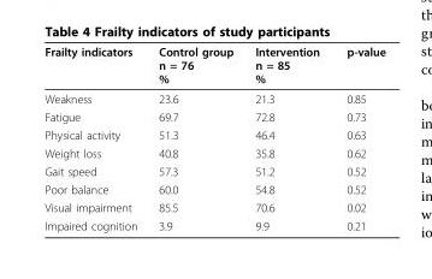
<table><thead><tr><td>Frailty indicators</td><td>Control group n = 76 %</td><td>Intervention n = 85 %</td><td>p-value</td></tr></thead><tbody><tr><td>Weakness</td><td>23.6</td><td>21.3</td><td>0.85</td></tr><tr><td>Fatigue</td><td>69.7</td><td>72.8</td><td>0.73</td></tr><tr><td>Physical activity</td><td>51.3</td><td>46.4</td><td>0.63</td></tr><tr><td>Weight loss</td><td>40.8</td><td>35.8</td><td>0.62</td></tr><tr><td>Gait speed</td><td>57.3</td><td>51.2</td><td>0.52</td></tr><tr><td>Poor balance</td><td>60.0</td><td>54.8</td><td>0.52</td></tr><tr><td>Visual impairment</td><td>85.5</td><td>70.6</td><td>0.02</td></tr><tr><td>Impaired cognition</td><td>3.9</td><td>9.9</td><td>0.21</td></tr></tbody></table>